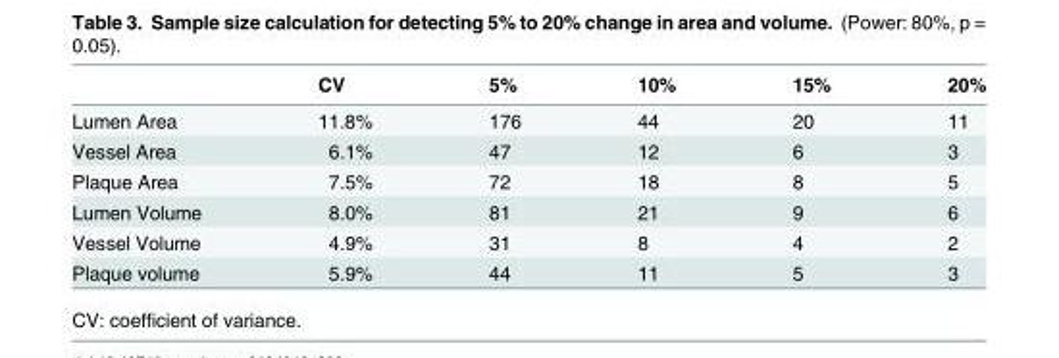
<table><thead><tr><td></td><td>CV</td><td>5%</td><td>10%</td><td>15%</td><td>20%</td></tr></thead><tbody><tr><td>Lumen Area</td><td>11.8%</td><td>176</td><td>44</td><td>20</td><td>11</td></tr><tr><td>Vessel Area</td><td>6.1%</td><td>47</td><td>12</td><td>6</td><td>3</td></tr><tr><td>Plaque Area</td><td>7.5%</td><td>72</td><td>18</td><td>8</td><td>5</td></tr><tr><td>Lumen Volume</td><td>8.0%</td><td>81</td><td>21</td><td>9</td><td>6</td></tr><tr><td>Vessel Volume</td><td>4.9%</td><td>31</td><td>8</td><td>4</td><td>2</td></tr><tr><td>Plaque volume</td><td>5.9%</td><td>44</td><td>11</td><td>5</td><td>3</td></tr></tbody></table>